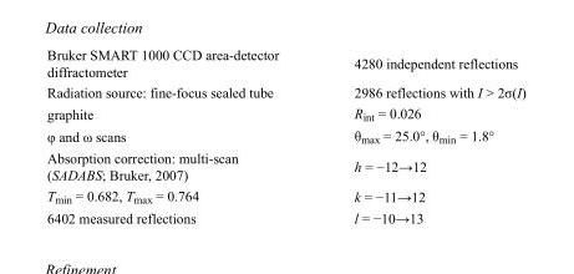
<table><tbody><tr><td>Bruker SMART 1000 CCD area-detector diffractometer</td><td>4280 independent reflections</td></tr><tr><td>Radiation source: fine-focus sealed tube</td><td>2986 reflections with I &gt; 2σ(I)</td></tr><tr><td>graphite</td><td>R<sub>int</sub> = 0.026</td></tr><tr><td>φ and ω scans</td><td>θ<sub>max</sub> = 25.0°, θ<sub>min</sub> = 1.8°</td></tr><tr><td>Absorption correction: multi-scan (SADABS; Bruker, 2007)</td><td>h = −12→12</td></tr><tr><td>T<sub>min</sub> = 0.682, T<sub>max</sub> = 0.764</td><td>k = −11→12</td></tr><tr><td>6402 measured reflections</td><td>l = −10→13</td></tr></tbody></table>